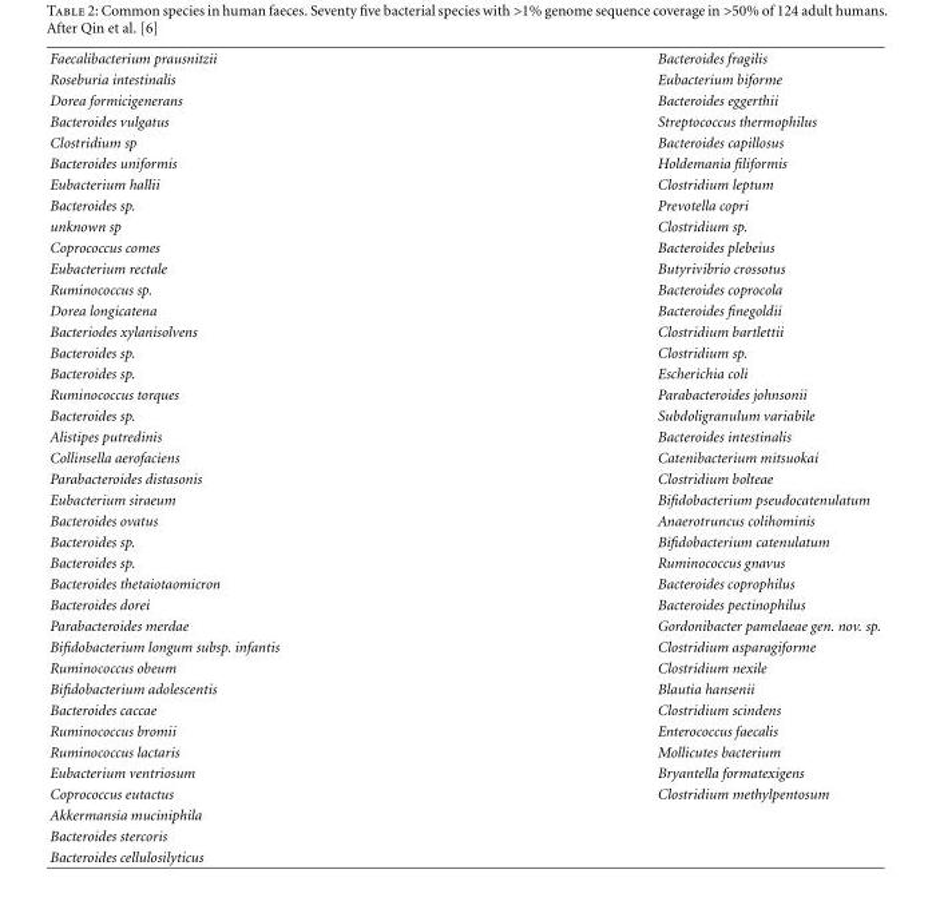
<table><tbody><tr><td>Faecalibacterium prausnitzii</td><td>Bacteroides fragilis</td></tr><tr><td>Roseburia intestinalis</td><td>Eubacterium biforme</td></tr><tr><td>Dorea formicigenerans</td><td>Bacteroides eggerthii</td></tr><tr><td>Bacteroides vulgatus</td><td>Streptococcus thermophilus</td></tr><tr><td>Clostridium sp</td><td>Bacteroides capillosus</td></tr><tr><td>Bacteroides uniformis</td><td>Holdemania filiformis</td></tr><tr><td>Eubacterium hallii</td><td>Clostridium leptum</td></tr><tr><td>Bacteroides sp.</td><td>Prevotella copri</td></tr><tr><td>unknown sp</td><td>Clostridium sp.</td></tr><tr><td>Coprococcus comes</td><td>Bacteroides plebeius</td></tr><tr><td>Eubacterium rectale</td><td>Butyrivibrio crossotus</td></tr><tr><td>Ruminococcus sp.</td><td>Bacteroides coprocola</td></tr><tr><td>Dorea longicatena</td><td>Bacteroides finegoldii</td></tr><tr><td>Bacteriodes xylanisolvens</td><td>Clostridium bartlettii</td></tr><tr><td>Bacteroides sp.</td><td>Clostridium sp.</td></tr><tr><td>Bacteroides sp.</td><td>Escherichia coli</td></tr><tr><td>Ruminococcus torques</td><td>Parabacteroides johnsonii</td></tr><tr><td>Bacteroides sp.</td><td>Subdoligranulum variabile</td></tr><tr><td>Alistipes putredinis</td><td>Bacteroides intestinalis</td></tr><tr><td>Collinsella aerofaciens</td><td>Catenibacterium mitsuokai</td></tr><tr><td>Parabacteroides distasonis</td><td>Clostridium bolteae</td></tr><tr><td>Eubacterium siraeum</td><td>Bifidobacterium pseudocatenulatum</td></tr><tr><td>Bacteroides ovatus</td><td>Anaerotruncus colihominis</td></tr><tr><td>Bacteroides sp.</td><td>Bifidobacterium catenulatum</td></tr><tr><td>Bacteroides sp.</td><td>Ruminococcus gnavus</td></tr><tr><td>Bacteroides thetaiotaomicron</td><td>Bacteroides coprophilus</td></tr><tr><td>Bacteroides dorei</td><td>Bacteroides pectinophilus</td></tr><tr><td>Parabacteroides merdae</td><td>Gordonibacter pamelaeae gen. nov. sp.</td></tr><tr><td>Bifidobacterium longum subsp. infantis</td><td>Clostridium asparagiforme</td></tr><tr><td>Ruminococcus obeum</td><td>Clostridium nexile</td></tr><tr><td>Bifidobacterium adolescentis</td><td>Blautia hansenii</td></tr><tr><td>Bacteroides caccae</td><td>Clostridium scindens</td></tr><tr><td>Ruminococcus bromii</td><td>Enterococcus faecalis</td></tr><tr><td>Ruminococcus lactaris</td><td>Mollicutes bacterium</td></tr><tr><td>Eubacterium ventriosum</td><td>Bryantella formatexigens</td></tr><tr><td>Coprococcus eutactus</td><td>Clostridium methylpentosum</td></tr><tr><td colspan="2">Akkermansia muciniphila</td></tr><tr><td colspan="2">Bacteroides stercoris</td></tr><tr><td>Bacteroides cellulosilyticus</td><td></td></tr></tbody></table>